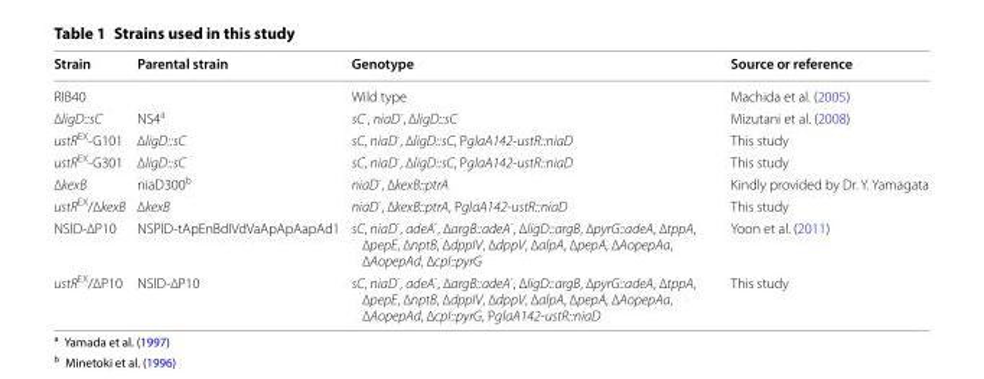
<table><thead><tr><td>Strain</td><td>Parental strain</td><td>Genotype</td><td>Source or reference</td></tr></thead><tbody><tr><td>RIB40</td><td></td><td>Wild type</td><td>Machida et al. (2005)</td></tr><tr><td>∆ligD::sC</td><td>NS4<sup>a</sup></td><td>sC<sup>-</sup>, niaD<sup>-</sup>, ∆ligD::sC</td><td>Mizutani et al. (2008)</td></tr><tr><td>ustR<sup>EX</sup>-G101</td><td>∆ligD::sC</td><td>sC, niaD<sup>-</sup>, ∆ligD::sC, PglaA142-ustR::niaD</td><td>This study</td></tr><tr><td>ustR<sup>EX</sup>-G301</td><td>∆ligD::sC</td><td>sC, niaD<sup>-</sup>, ∆ligD::sC, PglaA142-ustR::niaD</td><td>This study</td></tr><tr><td>∆kexB</td><td>niaD300<sup>b</sup></td><td>niaD<sup>-</sup>, ∆kexB::ptrA</td><td>Kindly provided by Dr. Y. Yamagata</td></tr><tr><td>ustR<sup>EX</sup>/∆kexB</td><td>∆kexB</td><td>niaD<sup>-</sup>, ∆kexB::ptrA, PglaA142-ustR::niaD</td><td>This study</td></tr><tr><td>NSlD-∆P10</td><td>NSPlD-tApEnBdIVdVaApApAapAd1</td><td>sC, niaD<sup>-</sup>, adeA<sup>-</sup>, ∆argB::adeA<sup>-</sup>, ∆ligD::argB, ∆pyrG::adeA, ∆tppA, ∆pepE, ∆nptB, ∆dppIV, ∆dppV, ∆alpA, ∆pepA, ∆AopepAa, ∆AopepAd, ∆cpI::pyrG</td><td>Yoon et al. (2011)</td></tr><tr><td>ustR<sup>EX</sup>/∆P10</td><td>NSlD-∆P10</td><td>sC, niaD<sup>-</sup>, adeA<sup>-</sup>, ∆argB::adeA<sup>-</sup>, ∆ligD::argB, ∆pyrG::adeA, ∆tppA, ∆pepE, ∆nptB, ∆dppIV, ∆dppV, ∆alpA, ∆pepA, ∆AopepAa, ∆AopepAd, ∆cpI::pyrG, PglaA142-ustR::niaD</td><td>This study</td></tr></tbody></table>